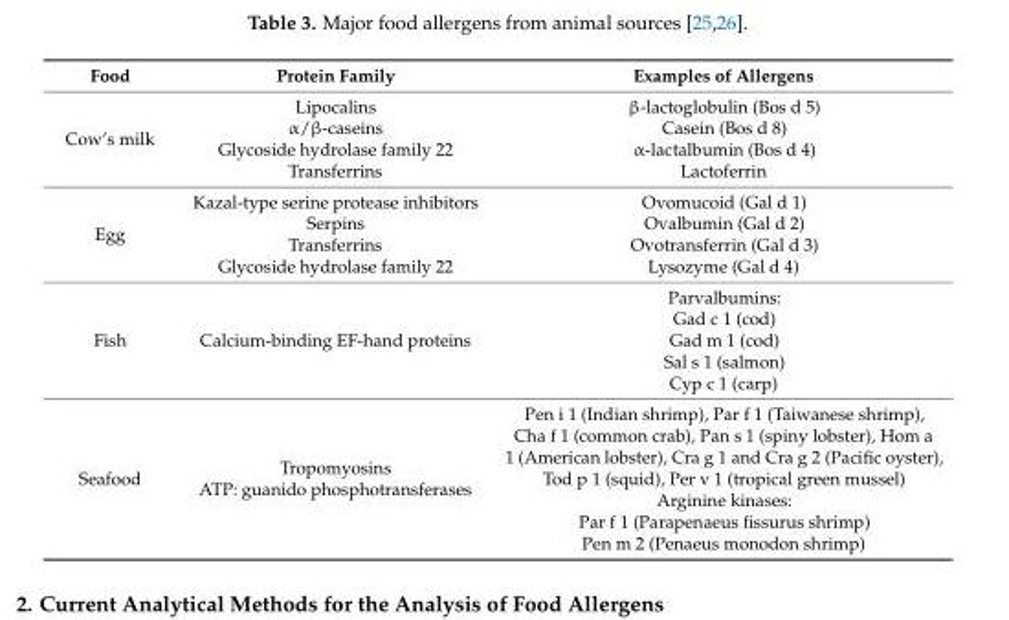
<table><thead><tr><td>Food</td><td>Protein Family</td><td>Examples of Allergens</td></tr></thead><tbody><tr><td>Cow’s milk</td><td>Lipocalins α/β-caseins Glycoside hydrolase family 22 Transferrins</td><td>β-lactoglobulin (Bos d 5) Casein (Bos d 8) α-lactalbumin (Bos d 4) Lactoferrin</td></tr><tr><td>Egg</td><td>Kazal-type serine protease inhibitors Serpins Transferrins Glycoside hydrolase family 22</td><td>Ovomucoid (Gal d 1) Ovalbumin (Gal d 2) Ovotransferrin (Gal d 3) Lysozyme (Gal d 4)</td></tr><tr><td>Fish</td><td>Calcium-binding EF-hand proteins</td><td>Parvalbumins: Gad c 1 (cod) Gad m 1 (cod) Sal s 1 (salmon) Cyp c 1 (carp)</td></tr><tr><td>Seafood</td><td>Tropomyosins ATP: guanido phosphotransferases</td><td>Pen i 1 (Indian shrimp), Par f 1 (Taiwanese shrimp), Cha f 1 (common crab), Pan s 1 (spiny lobster), Hom a 1 (American lobster), Cra g 1 and Cra g 2 (Pacific oyster), Tod p 1 (squid), Per v 1 (tropical green mussel) Arginine kinases: Par f 1 (Parapenaeus fissurus shrimp) Pen m 2 (Penaeus monodon shrimp)</td></tr></tbody></table>